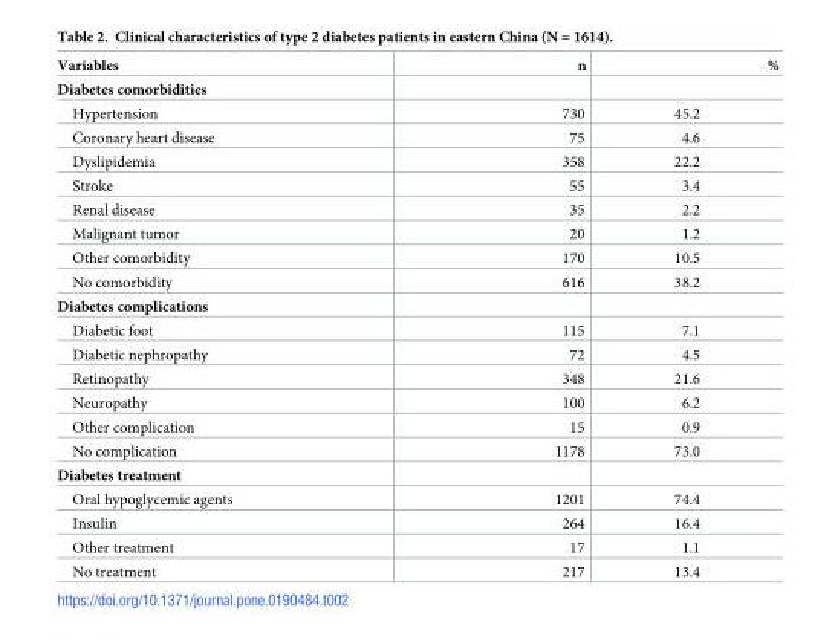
<table><thead><tr><td>Variables</td><td>n</td><td>%</td></tr></thead><tbody><tr><td colspan="3">Diabetes comorbidities</td></tr><tr><td>Hypertension</td><td>730</td><td>45.2</td></tr><tr><td>Coronary heart disease</td><td>75</td><td>4.6</td></tr><tr><td>Dyslipidemia</td><td>358</td><td>22.2</td></tr><tr><td>Stroke</td><td>55</td><td>3.4</td></tr><tr><td>Renal disease</td><td>35</td><td>2.2</td></tr><tr><td>Malignant tumor</td><td>20</td><td>1.2</td></tr><tr><td>Other comorbidity</td><td>170</td><td>10.5</td></tr><tr><td>No comorbidity</td><td>616</td><td>38.2</td></tr><tr><td colspan="3">Diabetes complications</td></tr><tr><td>Diabetic foot</td><td>115</td><td>7.1</td></tr><tr><td>Diabetic nephropathy</td><td>72</td><td>4.5</td></tr><tr><td>Retinopathy</td><td>348</td><td>21.6</td></tr><tr><td>Neuropathy</td><td>100</td><td>6.2</td></tr><tr><td>Other complication</td><td>15</td><td>0.9</td></tr><tr><td>No complication</td><td>1178</td><td>73.0</td></tr><tr><td colspan="3">Diabetes treatment</td></tr><tr><td>Oral hypoglycemic agents</td><td>1201</td><td>74.4</td></tr><tr><td>Insulin</td><td>264</td><td>16.4</td></tr><tr><td>Other treatment</td><td>17</td><td>1.1</td></tr><tr><td>No treatment</td><td>217</td><td>13.4</td></tr></tbody></table>